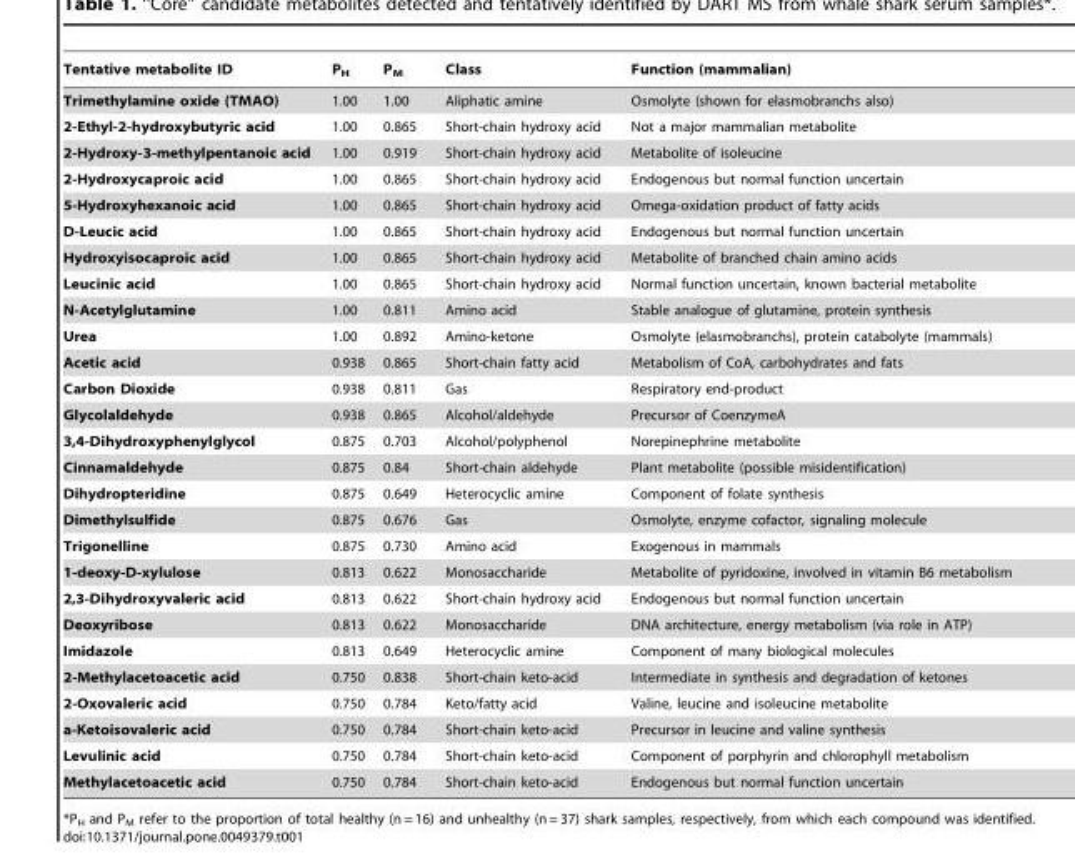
<table><thead><tr><td>Tentative metabolite ID</td><td>P<sub>H</sub></td><td>P<sub>M</sub></td><td>Class</td><td>Function (mammalian)</td></tr></thead><tbody><tr><td>Trimethylamine oxide (TMAO)</td><td>1.00</td><td>1.00</td><td>Aliphatic amine</td><td>Osmolyte (shown for elasmobranchs also)</td></tr><tr><td>2-Ethyl-2-hydroxybutyric acid</td><td>1.00</td><td>0.865</td><td>Short-chain hydroxy acid</td><td>Not a major mammalian metabolite</td></tr><tr><td>2-Hydroxy-3-methylpentanoic acid</td><td>1.00</td><td>0.919</td><td>Short-chain hydroxy acid</td><td>Metabolite of isoleucine</td></tr><tr><td>2-Hydroxycaproic acid</td><td>1.00</td><td>0.865</td><td>Short-chain hydroxy acid</td><td>Endogenous but normal function uncertain</td></tr><tr><td>5-Hydroxyhexanoic acid</td><td>1.00</td><td>0.865</td><td>Short-chain hydroxy acid</td><td>Omega-oxidation product of fatty acids</td></tr><tr><td>D-Leucic acid</td><td>1.00</td><td>0.865</td><td>Short-chain hydroxy acid</td><td>Endogenous but normal function uncertain</td></tr><tr><td>Hydroxyisocaproic acid</td><td>1.00</td><td>0.865</td><td>Short-chain hydroxy acid</td><td>Metabolite of branched chain amino acids</td></tr><tr><td>Leucinic acid</td><td>1.00</td><td>0.865</td><td>Short-chain hydroxy acid</td><td>Normal function uncertain, known bacterial metabolite</td></tr><tr><td>N-Acetylglutamine</td><td>1.00</td><td>0.811</td><td>Amino acid</td><td>Stable analogue of glutamine, protein synthesis</td></tr><tr><td>Urea</td><td>1.00</td><td>0.892</td><td>Amino-ketone</td><td>Osmolyte (elasmobranchs), protein catabolyte (mammals)</td></tr><tr><td>Acetic acid</td><td>0.938</td><td>0.865</td><td>Short-chain fatty acid</td><td>Metabolism of CoA, carbohydrates and fats</td></tr><tr><td>Carbon Dioxide</td><td>0.938</td><td>0.811</td><td>Gas</td><td>Respiratory end-product</td></tr><tr><td>Glycolaldehyde</td><td>0.938</td><td>0.865</td><td>Alcohol/aldehyde</td><td>Precursor of CoenzymeA</td></tr><tr><td>3,4-Dihydroxyphenylglycol</td><td>0.875</td><td>0.703</td><td>Alcohol/polyphenol</td><td>Norepinephrine metabolite</td></tr><tr><td>Cinnamaldehyde</td><td>0.875</td><td>0.84</td><td>Short-chain aldehyde</td><td>Plant metabolite (possible misidentification)</td></tr><tr><td>Dihydropteridine</td><td>0.875</td><td>0.649</td><td>Heterocyclic amine</td><td>Component of folate synthesis</td></tr><tr><td>Dimethylsulfide</td><td>0.875</td><td>0.676</td><td>Gas</td><td>Osmolyte, enzyme cofactor, signaling molecule</td></tr><tr><td>Trigonelline</td><td>0.875</td><td>0.730</td><td>Amino acid</td><td>Exogenous in mammals</td></tr><tr><td>1-deoxy-D-xylulose</td><td>0.813</td><td>0.622</td><td>Monosaccharide</td><td>Metabolite of pyridoxine, involved in vitamin B6 metabolism</td></tr><tr><td>2,3-Dihydroxyvaleric acid</td><td>0.813</td><td>0.622</td><td>Short-chain hydroxy acid</td><td>Endogenous but normal function uncertain</td></tr><tr><td>Deoxyribose</td><td>0.813</td><td>0.622</td><td>Monosaccharide</td><td>DNA architecture, energy metabolism (via role in ATP)</td></tr><tr><td>Imidazole</td><td>0.813</td><td>0.649</td><td>Heterocyclic amine</td><td>Component of many biological molecules</td></tr><tr><td>2-Methylacetoacetic acid</td><td>0.750</td><td>0.838</td><td>Short-chain keto-acid</td><td>Intermediate in synthesis and degradation of ketones</td></tr><tr><td>2-Oxovaleric acid</td><td>0.750</td><td>0.784</td><td>Keto/fatty acid</td><td>Valine, leucine and isoleucine metabolite</td></tr><tr><td>a-Ketoisovaleric acid</td><td>0.750</td><td>0.784</td><td>Short-chain keto-acid</td><td>Precursor in leucine and valine synthesis</td></tr><tr><td>Levulinic acid</td><td>0.750</td><td>0.784</td><td>Short-chain keto-acid</td><td>Component of porphyrin and chlorophyll metabolism</td></tr><tr><td>Methylacetoacetic acid</td><td>0.750</td><td>0.784</td><td>Short-chain keto-acid</td><td>Endogenous but normal function uncertain</td></tr></tbody></table>